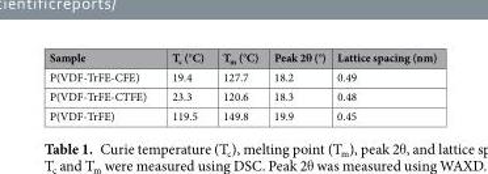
<table><thead><tr><td>Sample</td><td>T<sub>c</sub> (°C)</td><td>T<sub>m</sub> (°C)</td><td>Peak 2θ (°)</td><td>Lattice spacing (nm)</td></tr></thead><tbody><tr><td>P(VDF-TrFE-CFE)</td><td>19.4</td><td>127.7</td><td>18.2</td><td>0.49</td></tr><tr><td>P(VDF-TrFE-CTFE)</td><td>23.3</td><td>120.6</td><td>18.3</td><td>0.48</td></tr><tr><td>P(VDF-TrFE)</td><td>119.5</td><td>149.8</td><td>19.9</td><td>0.45</td></tr></tbody></table>